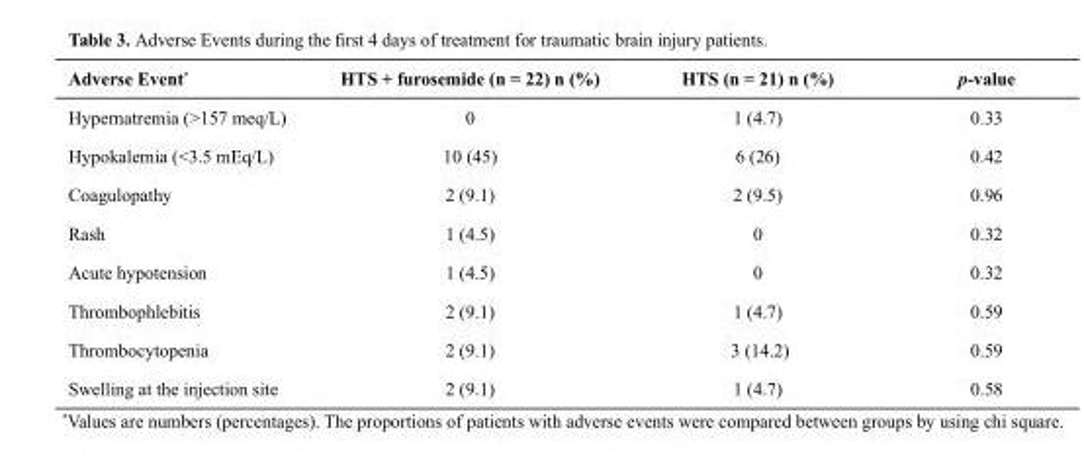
<table><thead><tr><td>Adverse Event*</td><td>HTS + furosemide (n = 22) n (%)</td><td>HTS (n = 21) n (%)</td><td>p-value</td></tr></thead><tbody><tr><td>Hypernatremia (&gt;157 meq/L)</td><td>0</td><td>1 (4.7)</td><td>0.33</td></tr><tr><td>Hypokalemia (&lt;3.5 mEq/L)</td><td>10 (45)</td><td>6 (26)</td><td>0.42</td></tr><tr><td>Coagulopathy</td><td>2 (9.1)</td><td>2 (9.5)</td><td>0.96</td></tr><tr><td>Rash</td><td>1 (4.5)</td><td>0</td><td>0.32</td></tr><tr><td>Acute hypotension</td><td>1 (4.5)</td><td>0</td><td>0.32</td></tr><tr><td>Thrombophlebitis</td><td>2 (9.1)</td><td>1 (4.7)</td><td>0.59</td></tr><tr><td>Thrombocytopenia</td><td>2 (9.1)</td><td>3 (14.2)</td><td>0.59</td></tr><tr><td>Swelling at the injection site</td><td>2 (9.1)</td><td>1 (4.7)</td><td>0.58</td></tr></tbody></table>